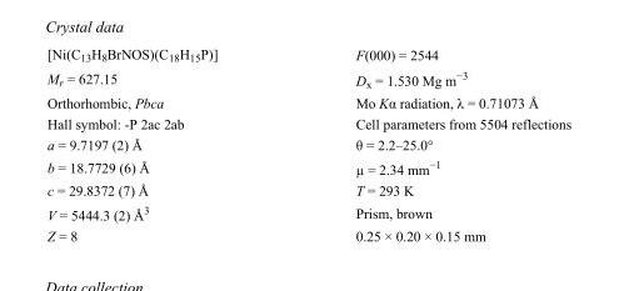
<table><tbody><tr><td>[Ni(C<sub>13</sub>H<sub>8</sub>BrNOS)(C<sub>18</sub>H<sub>15</sub>P)]</td><td>F(000) = 2544</td></tr><tr><td>M<sub>r</sub> = 627.15</td><td>D<sub>x</sub> = 1.530 Mg m<sup>−3</sup></td></tr><tr><td>Orthorhombic, Pbca</td><td>Mo Kα radiation, λ = 0.71073 Å</td></tr><tr><td>Hall symbol: -P 2ac 2ab</td><td>Cell parameters from 5504 reflections</td></tr><tr><td>a = 9.7197 (2) Å</td><td>θ = 2.2–25.0°</td></tr><tr><td>b = 18.7729 (6) Å</td><td>µ = 2.34 mm<sup>−1</sup></td></tr><tr><td>c = 29.8372 (7) Å</td><td>T = 293 K</td></tr><tr><td>V = 5444.3 (2) Å<sup>3</sup></td><td>Prism, brown</td></tr><tr><td>Z = 8</td><td>0.25 × 0.20 × 0.15 mm</td></tr></tbody></table>